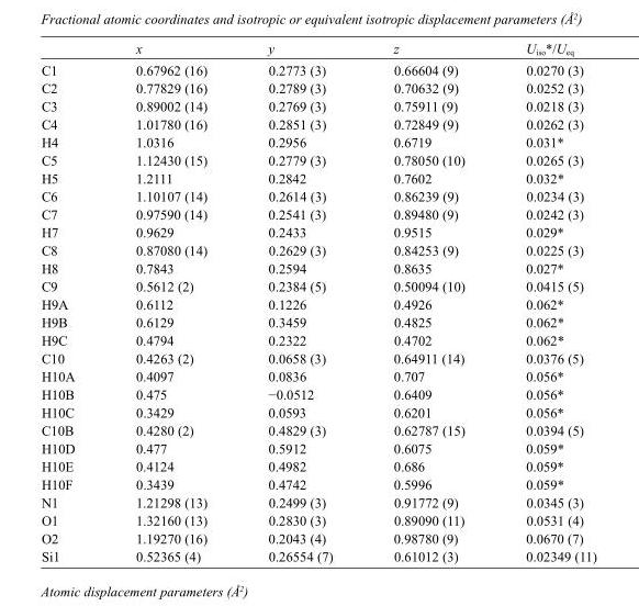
<table><thead><tr><td></td><td>x</td><td>y</td><td>z</td><td>U<sub>iso</sub>*/U<sub>eq</sub></td></tr></thead><tbody><tr><td>C1</td><td>0.67962 (16)</td><td>0.2773 (3)</td><td>0.66604 (9)</td><td>0.0270 (3)</td></tr><tr><td>C2</td><td>0.77829 (16)</td><td>0.2789 (3)</td><td>0.70632 (9)</td><td>0.0252 (3)</td></tr><tr><td>C3</td><td>0.89002 (14)</td><td>0.2769 (3)</td><td>0.75911 (9)</td><td>0.0218 (3)</td></tr><tr><td>C4</td><td>1.01780 (16)</td><td>0.2851 (3)</td><td>0.72849 (9)</td><td>0.0262 (3)</td></tr><tr><td>H4</td><td>1.0316</td><td>0.2956</td><td>0.6719</td><td>0.031*</td></tr><tr><td>C5</td><td>1.12430 (15)</td><td>0.2779 (3)</td><td>0.78050 (10)</td><td>0.0265 (3)</td></tr><tr><td>H5</td><td>1.2111</td><td>0.2842</td><td>0.7602</td><td>0.032*</td></tr><tr><td>C6</td><td>1.10107 (14)</td><td>0.2614 (3)</td><td>0.86239 (9)</td><td>0.0234 (3)</td></tr><tr><td>C7</td><td>0.97590 (14)</td><td>0.2541 (3)</td><td>0.89480 (9)</td><td>0.0242 (3)</td></tr><tr><td>H7</td><td>0.9629</td><td>0.2433</td><td>0.9515</td><td>0.029*</td></tr><tr><td>C8</td><td>0.87080 (14)</td><td>0.2629 (3)</td><td>0.84253 (9)</td><td>0.0225 (3)</td></tr><tr><td>H8</td><td>0.7843</td><td>0.2594</td><td>0.8635</td><td>0.027*</td></tr><tr><td>C9</td><td>0.5612 (2)</td><td>0.2384 (5)</td><td>0.50094 (10)</td><td>0.0415 (5)</td></tr><tr><td>H9A</td><td>0.6112</td><td>0.1226</td><td>0.4926</td><td>0.062*</td></tr><tr><td>H9B</td><td>0.6129</td><td>0.3459</td><td>0.4825</td><td>0.062*</td></tr><tr><td>H9C</td><td>0.4794</td><td>0.2322</td><td>0.4702</td><td>0.062*</td></tr><tr><td>C10</td><td>0.4263 (2)</td><td>0.0658 (3)</td><td>0.64911 (14)</td><td>0.0376 (5)</td></tr><tr><td>H10A</td><td>0.4097</td><td>0.0836</td><td>0.707</td><td>0.056*</td></tr><tr><td>H10B</td><td>0.475</td><td>−0.0512</td><td>0.6409</td><td>0.056*</td></tr><tr><td>H10C</td><td>0.3429</td><td>0.0593</td><td>0.6201</td><td>0.056*</td></tr><tr><td>C10B</td><td>0.4280 (2)</td><td>0.4829 (3)</td><td>0.62787 (15)</td><td>0.0394 (5)</td></tr><tr><td>H10D</td><td>0.477</td><td>0.5912</td><td>0.6075</td><td>0.059*</td></tr><tr><td>H10E</td><td>0.4124</td><td>0.4982</td><td>0.686</td><td>0.059*</td></tr><tr><td>H10F</td><td>0.3439</td><td>0.4742</td><td>0.5996</td><td>0.059*</td></tr><tr><td>N1</td><td>1.21298 (13)</td><td>0.2499 (3)</td><td>0.91772 (9)</td><td>0.0345 (3)</td></tr><tr><td>O1</td><td>1.32160 (13)</td><td>0.2830 (3)</td><td>0.89090 (11)</td><td>0.0531 (4)</td></tr><tr><td>O2</td><td>1.19270 (16)</td><td>0.2043 (4)</td><td>0.98780 (9)</td><td>0.0670 (7)</td></tr><tr><td>Si1</td><td>0.52365 (4)</td><td>0.26554 (7)</td><td>0.61012 (3)</td><td>0.02349 (11)</td></tr></tbody></table>